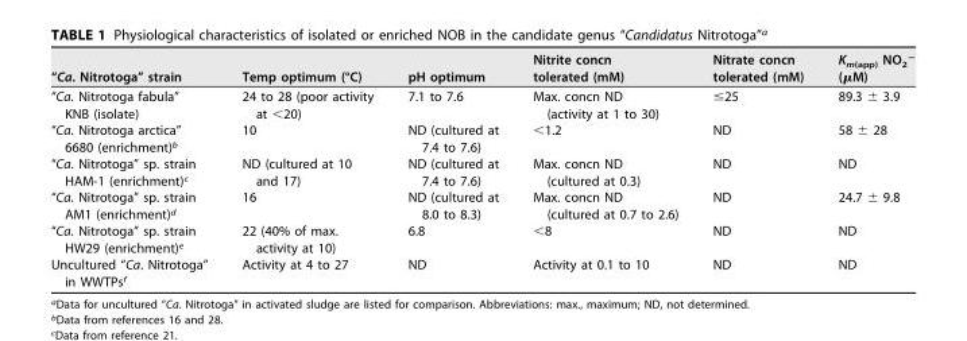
<table><thead><tr><td>“Ca. Nitrotoga” strain</td><td>Temp optimum (°C)</td><td>pH optimum</td><td>Nitrite concn tolerated (mM)</td><td>Nitrate concn tolerated (mM)</td><td>K<sub>m(app)</sub> NO<sub>2</sub><sup>−</sup> (µM)</td></tr></thead><tbody><tr><td>“Ca. Nitrotoga fabula” KNB (isolate)</td><td>24 to 28 (poor activity at &lt;20)</td><td>7.1 to 7.6</td><td>Max. concn ND (activity at 1 to 30)</td><td>≤25</td><td>89.3 ± 3.9</td></tr><tr><td>“Ca. Nitrotoga arctica” 6680 (enrichment)<sup>b</sup></td><td>10</td><td>ND (cultured at 7.4 to 7.6)</td><td>&lt;1.2</td><td>ND</td><td>58 ± 28</td></tr><tr><td>“Ca. Nitrotoga” sp. strain HAM-1 (enrichment)<sup>c</sup></td><td>ND (cultured at 10 and 17)</td><td>ND (cultured at 7.4 to 7.6)</td><td>Max. concn ND (cultured at 0.3)</td><td>ND</td><td>ND</td></tr><tr><td>“Ca. Nitrotoga” sp. strain AM1 (enrichment)<sup>d</sup></td><td>16</td><td>ND (cultured at 8.0 to 8.3)</td><td>Max. concn ND (cultured at 0.7 to 2.6)</td><td>ND</td><td>24.7 ± 9.8</td></tr><tr><td>“Ca. Nitrotoga” sp. strain HW29 (enrichment)<sup>e</sup></td><td>22 (40% of max. activity at 10)</td><td>6.8</td><td>&lt;8</td><td>ND</td><td>ND</td></tr><tr><td>Uncultured “Ca. Nitrotoga” in WWTPs<sup>f</sup></td><td>Activity at 4 to 27</td><td>ND</td><td>Activity at 0.1 to 10</td><td>ND</td><td>ND</td></tr></tbody></table>